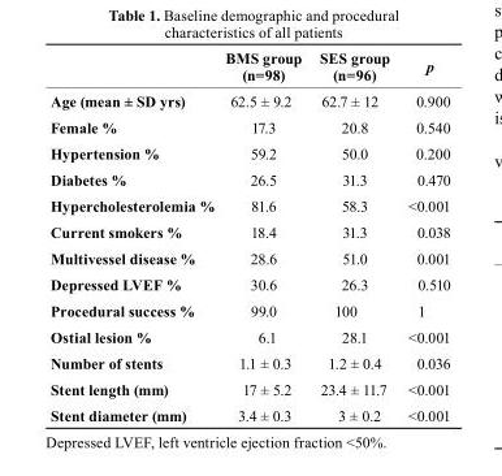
<table><thead><tr><td></td><td>BMS group (n=98)</td><td>SES group (n=96)</td><td>p</td></tr></thead><tbody><tr><td>Age (mean ± SD yrs)</td><td>62.5 ± 9.2</td><td>62.7 ± 12</td><td>0.900</td></tr><tr><td>Female %</td><td>17.3</td><td>20.8</td><td>0.540</td></tr><tr><td>Hypertension %</td><td>59.2</td><td>50.0</td><td>0.200</td></tr><tr><td>Diabetes %</td><td>26.5</td><td>31.3</td><td>0.470</td></tr><tr><td>Hypercholesterolemia %</td><td>81.6</td><td>58.3</td><td>&lt;0.001</td></tr><tr><td>Current smokers %</td><td>18.4</td><td>31.3</td><td>0.038</td></tr><tr><td>Multivessel disease %</td><td>28.6</td><td>51.0</td><td>0.001</td></tr><tr><td>Depressed LVEF %</td><td>30.6</td><td>26.3</td><td>0.510</td></tr><tr><td>Procedural success %</td><td>99.0</td><td>100</td><td>1</td></tr><tr><td>Ostial lesion %</td><td>6.1</td><td>28.1</td><td>&lt;0.001</td></tr><tr><td>Number of stents</td><td>1.1 ± 0.3</td><td>1.2 ± 0.4</td><td>0.036</td></tr><tr><td>Stent length (mm)</td><td>17 ± 5.2</td><td>23.4 ± 11.7</td><td>&lt;0.001</td></tr><tr><td>Stent diameter (mm)</td><td>3.4 ± 0.3</td><td>3 ± 0.2</td><td>&lt;0.001</td></tr></tbody></table>